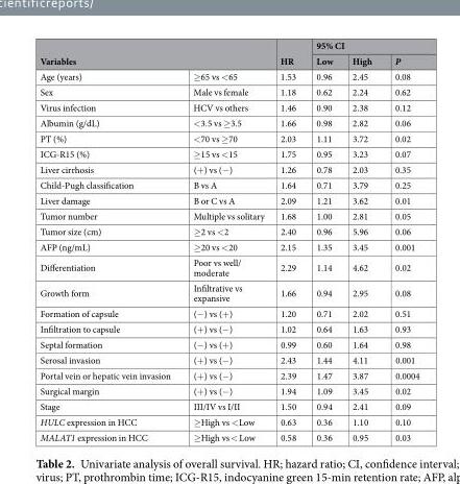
<table><thead><tr><td rowspan="2" colspan="2">Variables</td><td rowspan="3">HR 1.53</td><td colspan="3">95% CI</td></tr><tr><td rowspan="2">Low 0.96</td><td rowspan="2">High 2.45</td><td rowspan="2">P 0.08</td></tr><tr><td>Age (years)</td><td>≥65 vs &lt;65</td></tr></thead><tbody><tr><td>Sex</td><td>Male vs female</td><td>1.18</td><td>0.62</td><td>2.24</td><td>0.62</td></tr><tr><td>Virus infection</td><td>HCV vs others</td><td>1.46</td><td>0.90</td><td>2.38</td><td>0.12</td></tr><tr><td>Albumin (g/dL)</td><td>&lt;3.5 vs ≥3.5</td><td>1.66</td><td>0.98</td><td>2.82</td><td>0.06</td></tr><tr><td>PT (%)</td><td>&lt;70 vs ≥70</td><td>2.03</td><td>1.11</td><td>3.72</td><td>0.02</td></tr><tr><td>ICG-R15 (%)</td><td>≥15 vs &lt;15</td><td>1.75</td><td>0.95</td><td>3.23</td><td>0.07</td></tr><tr><td>Liver cirrhosis</td><td>(+) vs (−)</td><td>1.26</td><td>0.78</td><td>2.03</td><td>0.35</td></tr><tr><td>Child-Pugh classification</td><td>B vs A</td><td>1.64</td><td>0.71</td><td>3.79</td><td>0.25</td></tr><tr><td>Liver damage</td><td>B or C vs A</td><td>2.09</td><td>1.21</td><td>3.62</td><td>0.01</td></tr><tr><td>Tumor number</td><td>Multiple vs solitary</td><td>1.68</td><td>1.00</td><td>2.81</td><td>0.05</td></tr><tr><td>Tumor size (cm)</td><td>≥2 vs &lt;2</td><td>2.40</td><td>0.96</td><td>5.96</td><td>0.06</td></tr><tr><td>AFP (ng/mL)</td><td>≥20 vs &lt;20</td><td>2.15</td><td>1.35</td><td>3.45</td><td>0.001</td></tr><tr><td>Differentiation</td><td>Poor vs well/ moderate</td><td>2.29</td><td>1.14</td><td>4.62</td><td>0.02</td></tr><tr><td>Growth form</td><td>Infiltrative vs expansive</td><td>1.66</td><td>0.94</td><td>2.95</td><td>0.08</td></tr><tr><td>Formation of capsule</td><td>(−) vs (+)</td><td>1.20</td><td>0.71</td><td>2.02</td><td>0.51</td></tr><tr><td>Infiltration to capsule</td><td>(+) vs (−)</td><td>1.02</td><td>0.64</td><td>1.63</td><td>0.93</td></tr><tr><td>Septal formation</td><td>(−) vs (+)</td><td>0.99</td><td>0.60</td><td>1.64</td><td>0.98</td></tr><tr><td>Serosal invasion</td><td>(+) vs (−)</td><td>2.43</td><td>1.44</td><td>4.11</td><td>0.001</td></tr><tr><td>Portal vein or hepatic vein invasion</td><td>(+) vs (−)</td><td>2.39</td><td>1.47</td><td>3.87</td><td>0.0004</td></tr><tr><td>Surgical margin</td><td>(+) vs (−)</td><td>1.94</td><td>1.09</td><td>3.45</td><td>0.02</td></tr><tr><td>Stage</td><td>III/IV vs I/II</td><td>1.50</td><td>0.94</td><td>2.41</td><td>0.09</td></tr><tr><td>HULC expression in HCC</td><td>≥High vs &lt;Low</td><td>0.63</td><td>0.36</td><td>1.10</td><td>0.10</td></tr><tr><td>MALAT1 expression in HCC</td><td>≥High vs &lt; Low</td><td>0.58</td><td>0.36</td><td>0.95</td><td>0.03</td></tr></tbody></table>